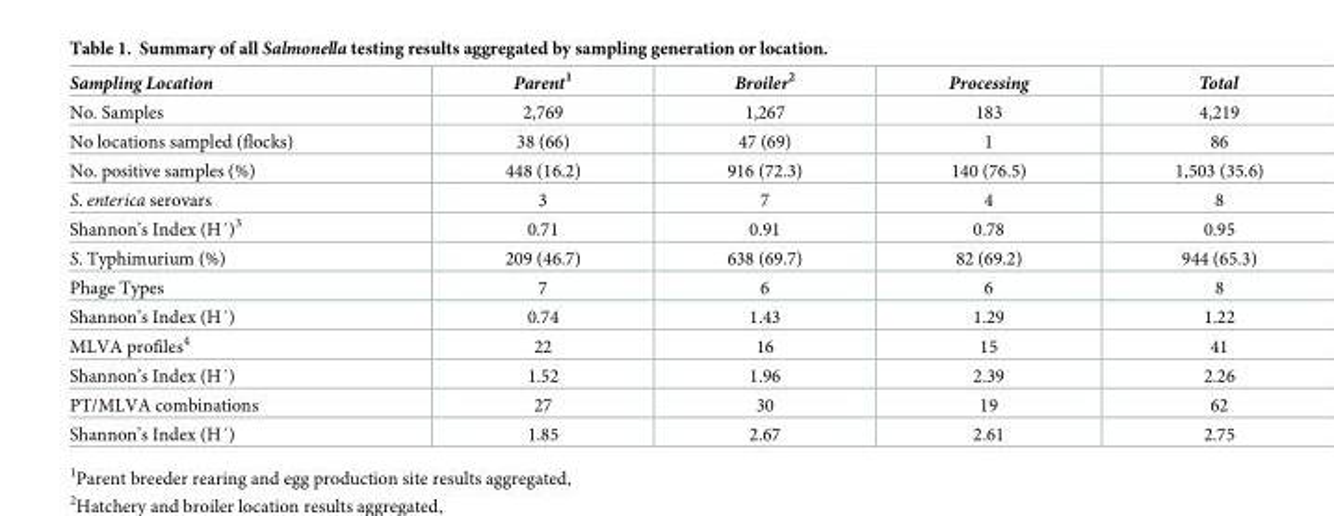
<table><thead><tr><td>Sampling Location</td><td>Parent<sup>1</sup></td><td>Broiler<sup>2</sup></td><td>Processing</td><td>Total</td></tr></thead><tbody><tr><td>No. Samples</td><td>2,769</td><td>1,267</td><td>183</td><td>4,219</td></tr><tr><td>No locations sampled (flocks)</td><td>38 (66)</td><td>47 (69)</td><td>1</td><td>86</td></tr><tr><td>No. positive samples (%)</td><td>448 (16.2)</td><td>916 (72.3)</td><td>140 (76.5)</td><td>1,503 (35.6)</td></tr><tr><td>S. enterica serovars</td><td>3</td><td>7</td><td>4</td><td>8</td></tr><tr><td>Shannon’s Index (H´)<sup>3</sup></td><td>0.71</td><td>0.91</td><td>0.78</td><td>0.95</td></tr><tr><td>S. Typhimurium (%)</td><td>209 (46.7)</td><td>638 (69.7)</td><td>82 (69.2)</td><td>944 (65.3)</td></tr><tr><td>Phage Types</td><td>7</td><td>6</td><td>6</td><td>8</td></tr><tr><td>Shannon’s Index (H´)</td><td>0.74</td><td>1.43</td><td>1.29</td><td>1.22</td></tr><tr><td>MLVA profiles<sup>4</sup></td><td>22</td><td>16</td><td>15</td><td>41</td></tr><tr><td>Shannon’s Index (H´)</td><td>1.52</td><td>1.96</td><td>2.39</td><td>2.26</td></tr><tr><td>PT/MLVA combinations</td><td>27</td><td>30</td><td>19</td><td>62</td></tr><tr><td>Shannon’s Index (H´)</td><td>1.85</td><td>2.67</td><td>2.61</td><td>2.75</td></tr></tbody></table>